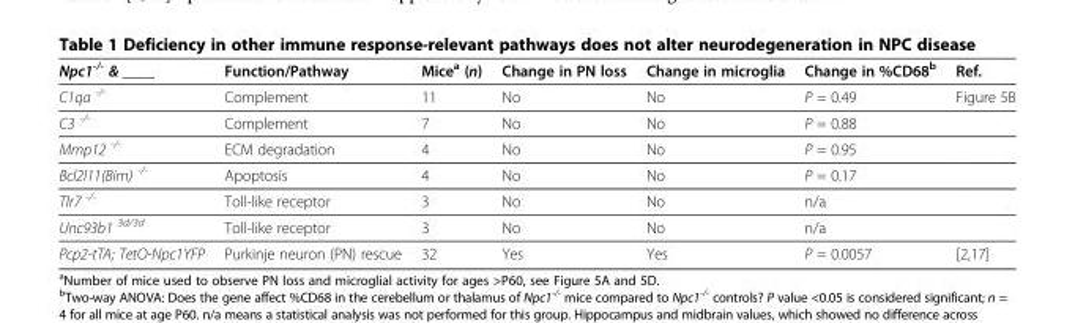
<table><thead><tr><td>Npc1<sup>-/-</sup> &amp; ____</td><td>Function/Pathway</td><td>Mice<sup>a</sup> (n)</td><td>Change in PN loss</td><td>Change in microglia</td><td>Change in %CD68<sup>b</sup></td><td>Ref.</td></tr></thead><tbody><tr><td>C1qa <sup>-/-</sup></td><td>Complement</td><td>11</td><td>No</td><td>No</td><td>P = 0.49</td><td>Figure 5B</td></tr><tr><td>C3 <sup>-/-</sup></td><td>Complement</td><td>7</td><td>No</td><td>No</td><td>P = 0.88</td><td></td></tr><tr><td>Mmp12 <sup>-/-</sup></td><td>ECM degradation</td><td>4</td><td>No</td><td>No</td><td>P = 0.95</td><td></td></tr><tr><td>Bcl2l11(Bim) <sup>-/-</sup></td><td>Apoptosis</td><td>4</td><td>No</td><td>No</td><td>P = 0.17</td><td></td></tr><tr><td>Tlr7 <sup>-/-</sup></td><td>Toll-like receptor</td><td>3</td><td>No</td><td>No</td><td>n/a</td><td></td></tr><tr><td>Unc93b1 <sup>3d/3d</sup></td><td>Toll-like receptor</td><td>3</td><td>No</td><td>No</td><td>n/a</td><td></td></tr><tr><td>Pcp2-tTA; TetO-Npc1YFP</td><td>Purkinje neuron (PN) rescue</td><td>32</td><td>Yes</td><td>Yes</td><td>P = 0.0057</td><td>[2,17]</td></tr></tbody></table>